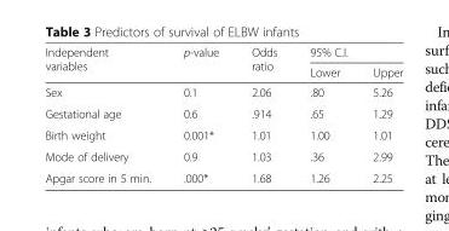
<table><thead><tr><td rowspan="2">Independent variables</td><td rowspan="2">p-value</td><td rowspan="2">Odds ratio</td><td colspan="2">95% C.I.</td></tr><tr><td>Lower</td><td>Upper</td></tr></thead><tbody><tr><td>Sex</td><td>0.1</td><td>2.06</td><td>.80</td><td>5.26</td></tr><tr><td>Gestational age</td><td>0.6</td><td>.914</td><td>.65</td><td>1.29</td></tr><tr><td>Birth weight</td><td>0.001*</td><td>1.01</td><td>1.00</td><td>1.01</td></tr><tr><td>Mode of delivery</td><td>0.9</td><td>1.03</td><td>.36</td><td>2.99</td></tr><tr><td>Apgar score in 5 min.</td><td>.000*</td><td>1.68</td><td>1.26</td><td>2.25</td></tr></tbody></table>